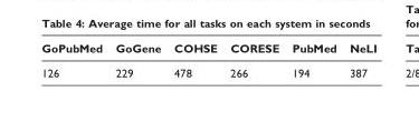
<table><thead><tr><td>GoPubMed</td><td>GoGene</td><td>COHSE</td><td>CORESE</td><td>PubMed</td><td>NeLI</td></tr></thead><tbody><tr><td>126</td><td>229</td><td>478</td><td>266</td><td>194</td><td>387</td></tr></tbody></table>